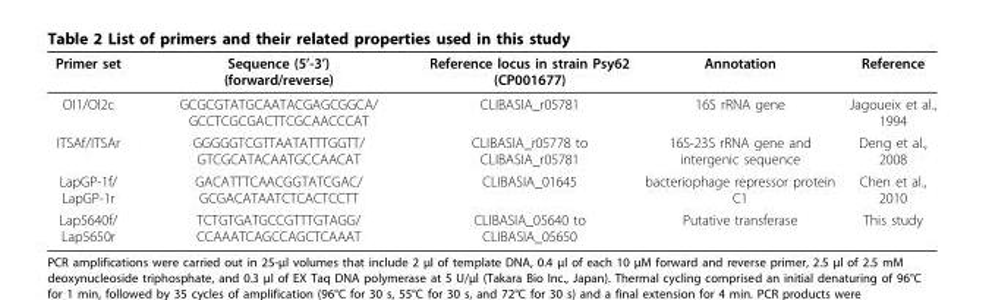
<table><thead><tr><td>Primer set</td><td>Sequence (5’-3’) (forward/reverse)</td><td>Reference locus in strain Psy62 (CP001677)</td><td>Annotation</td><td>Reference</td></tr></thead><tbody><tr><td>OI1/OI2c</td><td>GCGCGTATGCAATACGAGCGGCA/ GCCTCGCGACTTCGCAACCCAT</td><td>CLIBASIA_r05781</td><td>16S rRNA gene</td><td>Jagoueix et al., 1994</td></tr><tr><td>ITSAf/ITSAr</td><td>GGGGGTCGTTAATATTTGGTT/ GTCGCATACAATGCCAACAT</td><td>CLIBASIA_r05778 to CLIBASIA_r05781</td><td>16S-23S rRNA gene and intergenic sequence</td><td>Deng et al., 2008</td></tr><tr><td>LapGP-1f/ LapGP-1r</td><td>GACATTTCAACGGTATCGAC/ GCGACATAATCTCACTCCTT</td><td>CLIBASIA_01645</td><td>bacteriophage repressor protein C1</td><td>Chen et al., 2010</td></tr><tr><td>Lap5640f/ Lap5650r</td><td>TCTGTGATGCCGTTTGTAGG/ CCAAATCAGCCAGCTCAAAT</td><td>CLIBASIA_05640 to CLIBASIA_05650</td><td>Putative transferase</td><td>This study</td></tr></tbody></table>